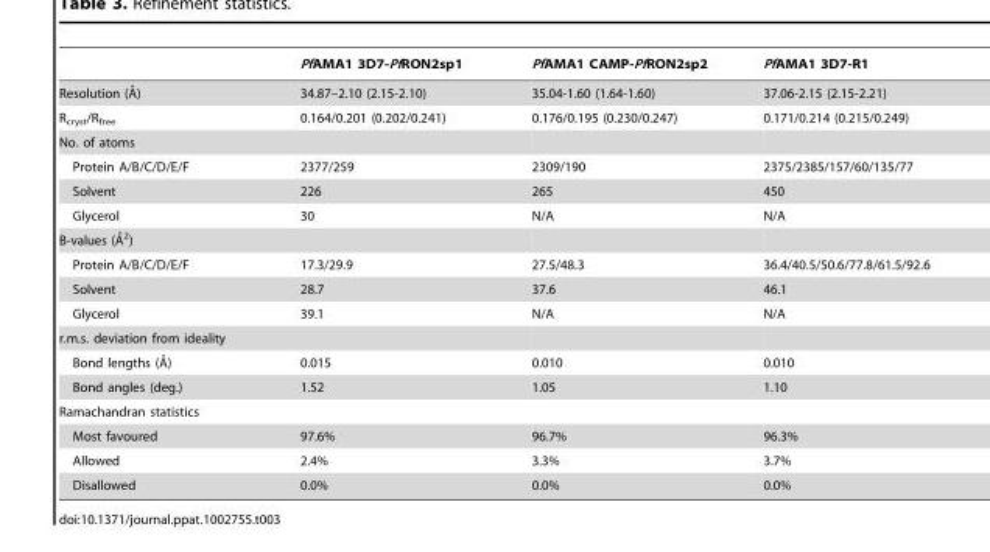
<table><thead><tr><td></td><td>PfAMA1 3D7-PfRON2sp1</td><td>PfAMA1 CAMP-PfRON2sp2</td><td>PfAMA1 3D7-R1</td></tr></thead><tbody><tr><td>Resolution (A˚)</td><td>34.87–2.10 (2.15-2.10)</td><td>35.04-1.60 (1.64-1.60)</td><td>37.06-2.15 (2.15-2.21)</td></tr><tr><td>R<sub>cryst</sub>/R<sub>free</sub></td><td>0.164/0.201 (0.202/0.241)</td><td>0.176/0.195 (0.230/0.247)</td><td>0.171/0.214 (0.215/0.249)</td></tr><tr><td colspan="4">No. of atoms</td></tr><tr><td>Protein A/B/C/D/E/F</td><td>2377/259</td><td>2309/190</td><td>2375/2385/157/60/135/77</td></tr><tr><td>Solvent</td><td>226</td><td>265</td><td>450</td></tr><tr><td>Glycerol</td><td>30</td><td>N/A</td><td>N/A</td></tr><tr><td colspan="4">B-values (A˚ 2)</td></tr><tr><td>Protein A/B/C/D/E/F</td><td>17.3/29.9</td><td>27.5/48.3</td><td>36.4/40.5/50.6/77.8/61.5/92.6</td></tr><tr><td>Solvent</td><td>28.7</td><td>37.6</td><td>46.1</td></tr><tr><td>Glycerol</td><td>39.1</td><td>N/A</td><td>N/A</td></tr><tr><td colspan="4">r.m.s. deviation from ideality</td></tr><tr><td>Bond lengths (A˚)</td><td>0.015</td><td>0.010</td><td>0.010</td></tr><tr><td>Bond angles (deg.)</td><td>1.52</td><td>1.05</td><td>1.10</td></tr><tr><td colspan="4">Ramachandran statistics</td></tr><tr><td>Most favoured</td><td>97.6%</td><td>96.7%</td><td>96.3%</td></tr><tr><td>Allowed</td><td>2.4%</td><td>3.3%</td><td>3.7%</td></tr><tr><td>Disallowed</td><td>0.0%</td><td>0.0%</td><td>0.0%</td></tr></tbody></table>